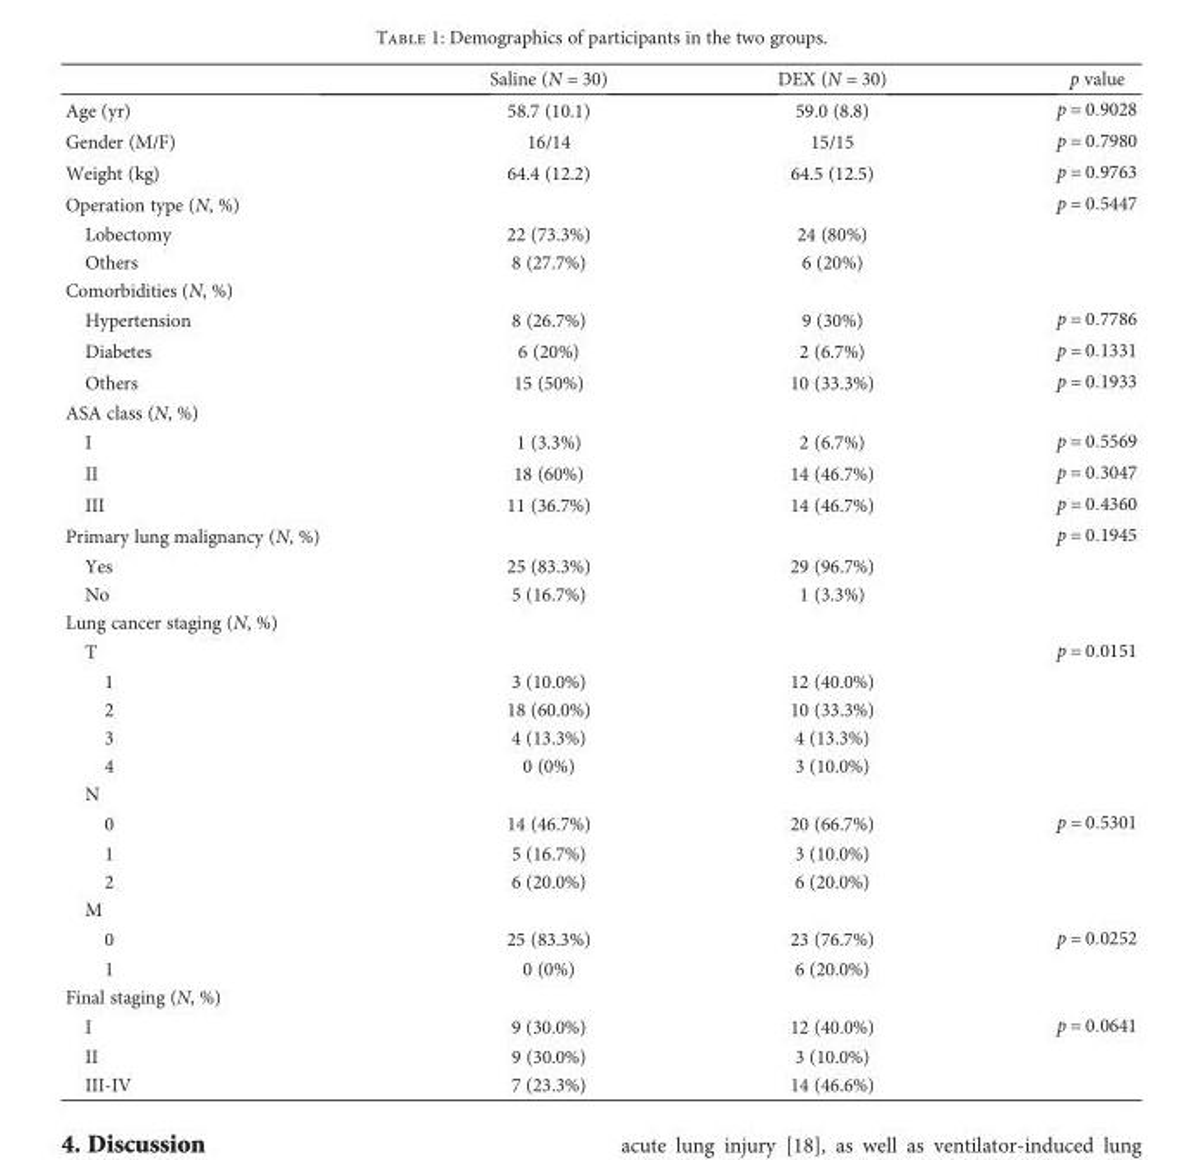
<table><thead><tr><td></td><td>Saline (N = 30)</td><td>DEX (N = 30)</td><td>p value</td></tr></thead><tbody><tr><td>Age (yr)</td><td>58.7 (10.1)</td><td>59.0 (8.8)</td><td>p = 0 9028</td></tr><tr><td>Gender (M/F)</td><td>16/14</td><td>15/15</td><td>p = 0 7980</td></tr><tr><td>Weight (kg)</td><td>64.4 (12.2)</td><td>64.5 (12.5)</td><td>p = 0 9763</td></tr><tr><td>Operation type (N, %)</td><td></td><td></td><td>p = 0 5447</td></tr><tr><td>Lobectomy</td><td>22 (73.3%)</td><td>24 (80%)</td><td></td></tr><tr><td>Others</td><td>8 (27.7%)</td><td>6 (20%)</td><td></td></tr><tr><td colspan="4">Comorbidities (N, %)</td></tr><tr><td>Hypertension</td><td>8 (26.7%)</td><td>9 (30%)</td><td>p = 0 7786</td></tr><tr><td>Diabetes</td><td>6 (20%)</td><td>2 (6.7%)</td><td>p = 0 1331</td></tr><tr><td>Others</td><td>15 (50%)</td><td>10 (33.3%)</td><td>p = 0 1933</td></tr><tr><td colspan="4">ASA class (N, %)</td></tr><tr><td>I</td><td>1 (3.3%)</td><td>2 (6.7%)</td><td>p = 0 5569</td></tr><tr><td>II</td><td>18 (60%)</td><td>14 (46.7%)</td><td>p = 0 3047</td></tr><tr><td>III</td><td>11 (36.7%)</td><td>14 (46.7%)</td><td>p = 0 4360</td></tr><tr><td>Primary lung malignancy (N, %)</td><td></td><td></td><td>p = 0 1945</td></tr><tr><td>Yes</td><td>25 (83.3%)</td><td>29 (96.7%)</td><td></td></tr><tr><td>No</td><td>5 (16.7%)</td><td>1 (3.3%)</td><td></td></tr><tr><td colspan="4">Lung cancer staging (N, %)</td></tr><tr><td>T</td><td></td><td></td><td>p = 0 0151</td></tr><tr><td>1</td><td>3 (10.0%)</td><td>12 (40.0%)</td><td></td></tr><tr><td>2</td><td>18 (60.0%)</td><td>10 (33.3%)</td><td></td></tr><tr><td>3</td><td>4 (13.3%)</td><td>4 (13.3%)</td><td></td></tr><tr><td>4</td><td>0 (0%)</td><td>3 (10.0%)</td><td></td></tr><tr><td colspan="4">N</td></tr><tr><td>0</td><td>14 (46.7%)</td><td>20 (66.7%)</td><td>p = 0 5301</td></tr><tr><td>1</td><td>5 (16.7%)</td><td>3 (10.0%)</td><td></td></tr><tr><td>2</td><td>6 (20.0%)</td><td>6 (20.0%)</td><td></td></tr><tr><td colspan="4">M</td></tr><tr><td>0</td><td>25 (83.3%)</td><td>23 (76.7%)</td><td>p = 0 0252</td></tr><tr><td>1</td><td>0 (0%)</td><td>6 (20.0%)</td><td></td></tr><tr><td colspan="4">Final staging (N, %)</td></tr><tr><td>I</td><td>9 (30.0%)</td><td>12 (40.0%)</td><td>p = 0 0641</td></tr><tr><td>II</td><td>9 (30.0%)</td><td>3 (10.0%)</td><td></td></tr><tr><td>III-IV</td><td>7 (23.3%)</td><td>14 (46.6%)</td><td></td></tr></tbody></table>